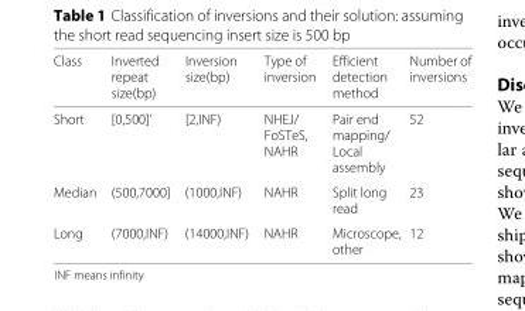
<table><thead><tr><td>Class</td><td>Inverted repeat size(bp)</td><td>Inversion size(bp)</td><td>Type of inversion</td><td>Efficient detection method</td><td>Number of inversions</td></tr></thead><tbody><tr><td>Short</td><td>[0,500]’</td><td>[2,INF)</td><td>NHEJ/ FoSTeS, NAHR</td><td>Pair end mapping/ Local assembly</td><td>52</td></tr><tr><td>Median</td><td>(500,7000]</td><td>(1000,INF)</td><td>NAHR</td><td>Split long read</td><td>23</td></tr><tr><td>Long</td><td>(7000,INF)</td><td>(14000,INF)</td><td>NAHR</td><td>Microscope, other</td><td>12</td></tr></tbody></table>